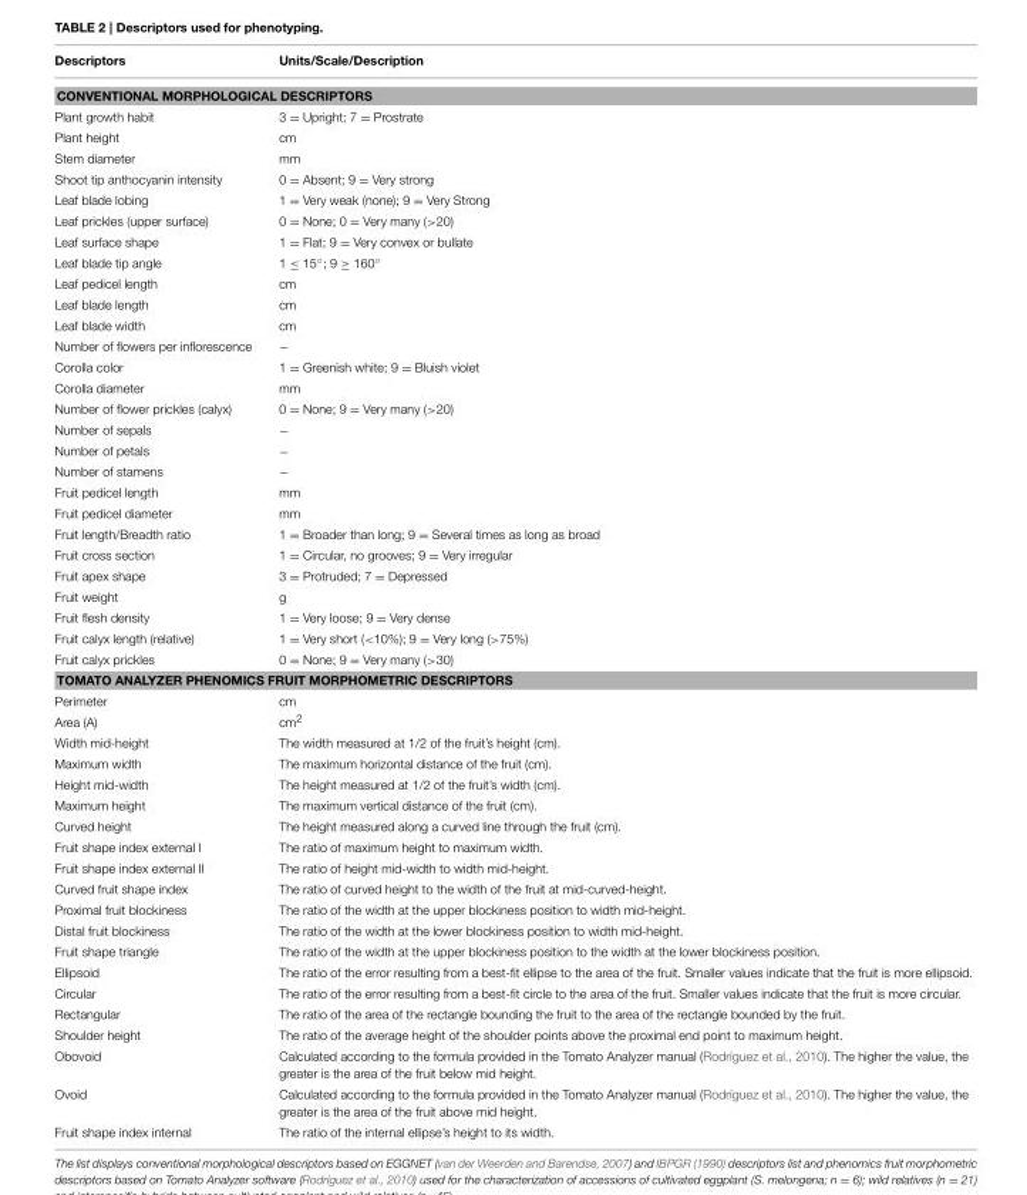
<table><thead><tr><td>Descriptors</td><td>Units/Scale/Description</td></tr></thead><tbody><tr><td colspan="2">CONVENTIONAL MORPHOLOGICAL DESCRIPTORS</td></tr><tr><td>Plant growth habit</td><td>3 = Upright; 7 = Prostrate</td></tr><tr><td>Plant height</td><td>cm</td></tr><tr><td>Stem diameter</td><td>mm</td></tr><tr><td>Shoot tip anthocyanin intensity</td><td>0 = Absent; 9 = Very strong</td></tr><tr><td>Leaf blade lobing</td><td>1 = Very weak (none); 9 = Very Strong</td></tr><tr><td>Leaf prickles (upper surface)</td><td>0 = None; 0 = Very many (&gt;20)</td></tr><tr><td>Leaf surface shape</td><td>1 = Flat; 9 = Very convex or bullate</td></tr><tr><td>Leaf blade tip angle</td><td>1 ≤ 15◦; 9 ≥ 160◦</td></tr><tr><td>Leaf pedicel length</td><td>cm</td></tr><tr><td>Leaf blade length</td><td>cm</td></tr><tr><td>Leaf blade width</td><td>cm</td></tr><tr><td>Number of flowers per inflorescence</td><td>−</td></tr><tr><td>Corolla color</td><td>1 = Greenish white; 9 = Bluish violet</td></tr><tr><td>Corolla diameter</td><td>mm</td></tr><tr><td>Number of flower prickles (calyx)</td><td>0 = None; 9 = Very many (&gt;20)</td></tr><tr><td>Number of sepals</td><td>−</td></tr><tr><td>Number of petals</td><td>−</td></tr><tr><td>Number of stamens</td><td>−</td></tr><tr><td>Fruit pedicel length</td><td>mm</td></tr><tr><td>Fruit pedicel diameter</td><td>mm</td></tr><tr><td>Fruit length/Breadth ratio</td><td>1 = Broader than long; 9 = Several times as long as broad</td></tr><tr><td>Fruit cross section</td><td>1 = Circular, no grooves; 9 = Very irregular</td></tr><tr><td>Fruit apex shape</td><td>3 = Protruded; 7 = Depressed</td></tr><tr><td>Fruit weight</td><td>g</td></tr><tr><td>Fruit flesh density</td><td>1 = Very loose; 9 = Very dense</td></tr><tr><td>Fruit calyx length (relative)</td><td>1 = Very short (&lt;10%); 9 = Very long (&gt;75%)</td></tr><tr><td>Fruit calyx prickles</td><td>0 = None; 9 = Very many (&gt;30)</td></tr><tr><td colspan="2">TOMATO ANALYZER PHENOMICS FRUIT MORPHOMETRIC DESCRIPTORS</td></tr><tr><td>Perimeter</td><td>cm</td></tr><tr><td>Area (A)</td><td>cm<sup>2</sup></td></tr><tr><td>Width mid-height</td><td>The width measured at 1/2 of the fruit’s height (cm).</td></tr><tr><td>Maximum width</td><td>The maximum horizontal distance of the fruit (cm).</td></tr><tr><td>Height mid-width</td><td>The height measured at 1/2 of the fruit’s width (cm).</td></tr><tr><td>Maximum height</td><td>The maximum vertical distance of the fruit (cm).</td></tr><tr><td>Curved height</td><td>The height measured along a curved line through the fruit (cm).</td></tr><tr><td>Fruit shape index external I</td><td>The ratio of maximum height to maximum width.</td></tr><tr><td>Fruit shape index external II</td><td>The ratio of height mid-width to width mid-height.</td></tr><tr><td>Curved fruit shape index</td><td>The ratio of curved height to the width of the fruit at mid-curved-height.</td></tr><tr><td>Proximal fruit blockiness</td><td>The ratio of the width at the upper blockiness position to width mid-height.</td></tr><tr><td>Distal fruit blockiness</td><td>The ratio of the width at the lower blockiness position to width mid-height.</td></tr><tr><td>Fruit shape triangle</td><td>The ratio of the width at the upper blockiness position to the width at the lower blockiness position.</td></tr><tr><td>Ellipsoid</td><td>The ratio of the error resulting from a best-fit ellipse to the area of the fruit. Smaller values indicate that the fruit is more ellipsoid.</td></tr><tr><td>Circular</td><td>The ratio of the error resulting from a best-fit circle to the area of the fruit. Smaller values indicate that the fruit is more circular.</td></tr><tr><td>Rectangular</td><td>The ratio of the area of the rectangle bounding the fruit to the area of the rectangle bounded by the fruit.</td></tr><tr><td>Shoulder height</td><td>The ratio of the average height of the shoulder points above the proximal end point to maximum height.</td></tr><tr><td>Obovoid</td><td>Calculated according to the formula provided in the Tomato Analyzer manual (Rodríguez et al., 2010). The higher the value, the greater is the area of the fruit below mid height.</td></tr><tr><td>Ovoid</td><td>Calculated according to the formula provided in the Tomato Analyzer manual (Rodríguez et al., 2010). The higher the value, the greater is the area of the fruit above mid height.</td></tr><tr><td>Fruit shape index internal</td><td>The ratio of the internal ellipse’s height to its width.</td></tr></tbody></table>